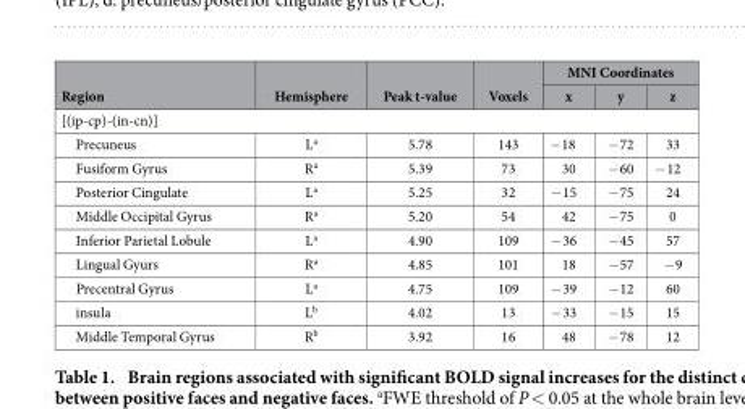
<table><thead><tr><td rowspan="2">Region</td><td rowspan="2">Hemisphere</td><td rowspan="2">Peak t-value</td><td rowspan="2">Voxels</td><td colspan="3">MNI Coordinates</td></tr><tr><td>x</td><td>y</td><td>z</td></tr></thead><tbody><tr><td colspan="7">[(ip-cp)-(in-cn)]</td></tr><tr><td>Precuneus</td><td>L<sup>a</sup></td><td>5.78</td><td>143</td><td>− 18</td><td>− 72</td><td>33</td></tr><tr><td>Fusiform Gyrus</td><td>R<sup>a</sup></td><td>5.39</td><td>73</td><td>30</td><td>− 60</td><td>− 12</td></tr><tr><td>Posterior Cingulate</td><td>L<sup>a</sup></td><td>5.25</td><td>32</td><td>− 15</td><td>− 75</td><td>24</td></tr><tr><td>Middle Occipital Gyrus</td><td>R<sup>a</sup></td><td>5.20</td><td>54</td><td>42</td><td>− 75</td><td>0</td></tr><tr><td>Inferior Parietal Lobule</td><td>L<sup>a</sup></td><td>4.90</td><td>109</td><td>− 36</td><td>− 45</td><td>57</td></tr><tr><td>Lingual Gyurs</td><td>R<sup>a</sup></td><td>4.85</td><td>101</td><td>18</td><td>− 57</td><td>− 9</td></tr><tr><td>Precentral Gyrus</td><td>L<sup>a</sup></td><td>4.75</td><td>109</td><td>− 39</td><td>− 12</td><td>60</td></tr><tr><td>insula</td><td>L<sup>b</sup></td><td>4.02</td><td>13</td><td>− 33</td><td>− 15</td><td>15</td></tr><tr><td>Middle Temporal Gyrus</td><td>R<sup>b</sup></td><td>3.92</td><td>16</td><td>48</td><td>− 78</td><td>12</td></tr></tbody></table>